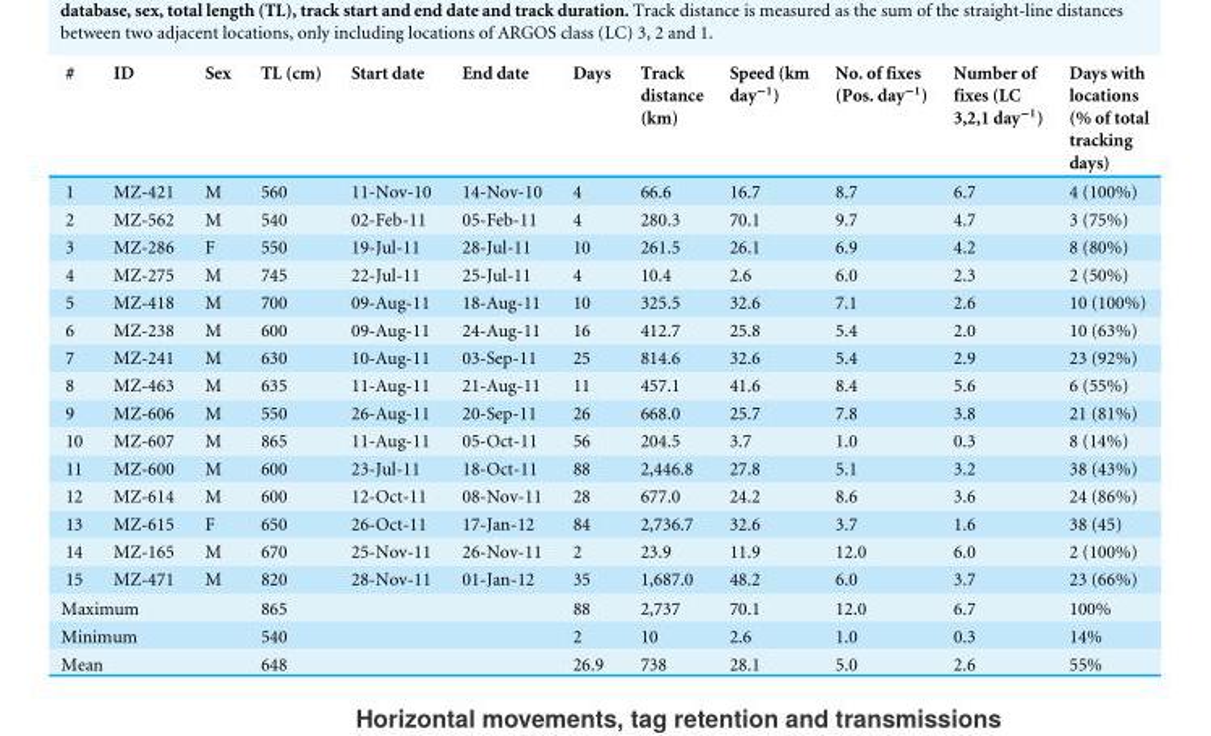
<table><thead><tr><td>#</td><td>ID</td><td>Sex</td><td>TL (cm)</td><td>Start date</td><td>End date</td><td>Days</td><td>Track distance (km)</td><td>Speed (km day<sup>−1</sup>)</td><td>No. of fixes (Pos. day<sup>−1</sup>)</td><td>Number of fixes (LC 3,2,1 day<sup>−1</sup>)</td><td>Days with locations (% of total tracking days)</td></tr></thead><tbody><tr><td>1</td><td>MZ-421</td><td>M</td><td>560</td><td>11-Nov-10</td><td>14-Nov-10</td><td>4</td><td>66.6</td><td>16.7</td><td>8.7</td><td>6.7</td><td>4 (100%)</td></tr><tr><td>2</td><td>MZ-562</td><td>M</td><td>540</td><td>02-Feb-11</td><td>05-Feb-11</td><td>4</td><td>280.3</td><td>70.1</td><td>9.7</td><td>4.7</td><td>3 (75%)</td></tr><tr><td>3</td><td>MZ-286</td><td>F</td><td>550</td><td>19-Jul-11</td><td>28-Jul-11</td><td>10</td><td>261.5</td><td>26.1</td><td>6.9</td><td>4.2</td><td>8 (80%)</td></tr><tr><td>4</td><td>MZ-275</td><td>M</td><td>745</td><td>22-Jul-11</td><td>25-Jul-11</td><td>4</td><td>10.4</td><td>2.6</td><td>6.0</td><td>2.3</td><td>2 (50%)</td></tr><tr><td>5</td><td>MZ-418</td><td>M</td><td>700</td><td>09-Aug-11</td><td>18-Aug-11</td><td>10</td><td>325.5</td><td>32.6</td><td>7.1</td><td>2.6</td><td>10 (100%)</td></tr><tr><td>6</td><td>MZ-238</td><td>M</td><td>600</td><td>09-Aug-11</td><td>24-Aug-11</td><td>16</td><td>412.7</td><td>25.8</td><td>5.4</td><td>2.0</td><td>10 (63%)</td></tr><tr><td>7</td><td>MZ-241</td><td>M</td><td>630</td><td>10-Aug-11</td><td>03-Sep-11</td><td>25</td><td>814.6</td><td>32.6</td><td>5.4</td><td>2.9</td><td>23 (92%)</td></tr><tr><td>8</td><td>MZ-463</td><td>M</td><td>635</td><td>11-Aug-11</td><td>21-Aug-11</td><td>11</td><td>457.1</td><td>41.6</td><td>8.4</td><td>5.6</td><td>6 (55%)</td></tr><tr><td>9</td><td>MZ-606</td><td>M</td><td>550</td><td>26-Aug-11</td><td>20-Sep-11</td><td>26</td><td>668.0</td><td>25.7</td><td>7.8</td><td>3.8</td><td>21 (81%)</td></tr><tr><td>10</td><td>MZ-607</td><td>M</td><td>865</td><td>11-Aug-11</td><td>05-Oct-11</td><td>56</td><td>204.5</td><td>3.7</td><td>1.0</td><td>0.3</td><td>8 (14%)</td></tr><tr><td>11</td><td>MZ-600</td><td>M</td><td>600</td><td>23-Jul-11</td><td>18-Oct-11</td><td>88</td><td>2,446.8</td><td>27.8</td><td>5.1</td><td>3.2</td><td>38 (43%)</td></tr><tr><td>12</td><td>MZ-614</td><td>M</td><td>600</td><td>12-Oct-11</td><td>08-Nov-11</td><td>28</td><td>677.0</td><td>24.2</td><td>8.6</td><td>3.6</td><td>24 (86%)</td></tr><tr><td>13</td><td>MZ-615</td><td>F</td><td>650</td><td>26-Oct-11</td><td>17-Jan-12</td><td>84</td><td>2,736.7</td><td>32.6</td><td>3.7</td><td>1.6</td><td>38 (45)</td></tr><tr><td>14</td><td>MZ-165</td><td>M</td><td>670</td><td>25-Nov-11</td><td>26-Nov-11</td><td>2</td><td>23.9</td><td>11.9</td><td>12.0</td><td>6.0</td><td>2 (100%)</td></tr><tr><td>15</td><td>MZ-471</td><td>M</td><td>820</td><td>28-Nov-11</td><td>01-Jan-12</td><td>35</td><td>1,687.0</td><td>48.2</td><td>6.0</td><td>3.7</td><td>23 (66%)</td></tr><tr><td colspan="2">Maximum</td><td></td><td>865</td><td></td><td></td><td>88</td><td>2,737</td><td>70.1</td><td>12.0</td><td>6.7</td><td>100%</td></tr><tr><td colspan="2">Minimum</td><td></td><td>540</td><td></td><td></td><td>2</td><td>10</td><td>2.6</td><td>1.0</td><td>0.3</td><td>14%</td></tr><tr><td colspan="2">Mean</td><td></td><td>648</td><td></td><td></td><td>26.9</td><td>738</td><td>28.1</td><td>5.0</td><td>2.6</td><td>55%</td></tr></tbody></table>